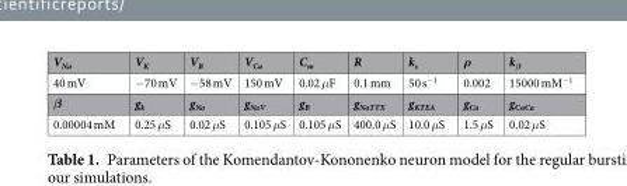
<table><thead><tr><td>V<sub>Na</sub></td><td>V<sub>K</sub></td><td>V<sub>B</sub></td><td>V<sub>Ca</sub></td><td>C<sub>m</sub></td><td>R</td><td>k<sub>s</sub></td><td>ρ</td><td>k<sub>β</sub></td></tr></thead><tbody><tr><td>40 mV</td><td>−70 mV</td><td>−58 mV</td><td>150 mV</td><td>0.02 μF</td><td>0.1 mm</td><td>50 s<sup>−1</sup></td><td>0.002</td><td>15000 mM<sup>−1</sup></td></tr><tr><td>β</td><td>g<sub>k</sub></td><td>g<sub>Na</sub></td><td>g<sub>NaV</sub></td><td>g<sub>B</sub></td><td>g<sub>NaTTX</sub></td><td>g<sub>KTEA</sub></td><td>g<sub>Ca</sub></td><td>g<sub>CaCa</sub></td></tr><tr><td>0.00004 mM</td><td>0.25 μS</td><td>0.02 μS</td><td>0.105 μS</td><td>0.105 μS</td><td>400.0 μS</td><td>10.0 μS</td><td>1.5 μS</td><td>0.02 μS</td></tr></tbody></table>